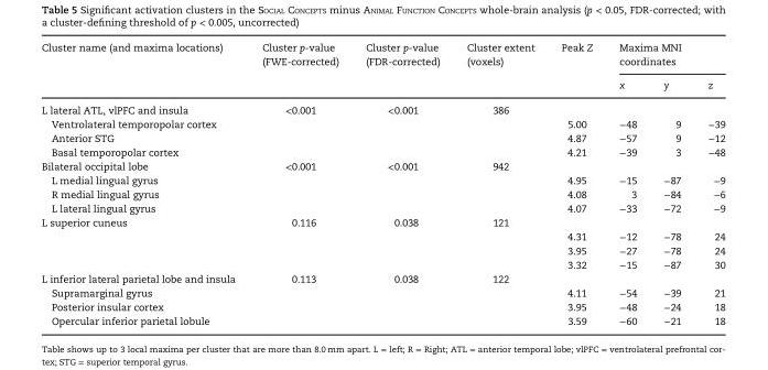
<table><thead><tr><td rowspan="2">Cluster name (and maxima locations)</td><td rowspan="2">Cluster p-value (FWE-corrected)</td><td rowspan="2">Cluster p-value (FDR-corrected)</td><td rowspan="2">Cluster extent (voxels)</td><td rowspan="2">Peak Z</td><td colspan="3">Maxima MNI coordinates</td></tr><tr><td>x</td><td>y</td><td>z</td></tr></thead><tbody><tr><td>L lateral ATL, vlPFC and insula</td><td>&lt;0.001</td><td>&lt;0.001</td><td>386</td><td></td><td></td><td></td><td></td></tr><tr><td>Ventrolateral temporopolar cortex</td><td></td><td></td><td></td><td>5.00</td><td>−48</td><td>9</td><td>−39</td></tr><tr><td>Anterior STG</td><td></td><td></td><td></td><td>4.87</td><td>−57</td><td>9</td><td>−12</td></tr><tr><td>Basal temporopolar cortex</td><td></td><td></td><td></td><td>4.21</td><td>−39</td><td>3</td><td>−48</td></tr><tr><td>Bilateral occipital lobe</td><td>&lt;0.001</td><td>&lt;0.001</td><td>942</td><td></td><td></td><td></td><td></td></tr><tr><td>L medial lingual gyrus</td><td></td><td></td><td></td><td>4.95</td><td>−15</td><td>−87</td><td>−9</td></tr><tr><td>R medial lingual gyrus</td><td></td><td></td><td></td><td>4.08</td><td>3</td><td>−84</td><td>−6</td></tr><tr><td>L lateral lingual gyrus</td><td></td><td></td><td></td><td>4.07</td><td>−33</td><td>−72</td><td>−9</td></tr><tr><td rowspan="4">L superior cuneus</td><td>0.116</td><td>0.038</td><td>121</td><td></td><td></td><td></td><td></td></tr><tr><td></td><td></td><td></td><td>4.31</td><td>−12</td><td>−78</td><td>24</td></tr><tr><td></td><td></td><td></td><td>3.95</td><td>−27</td><td>−78</td><td>24</td></tr><tr><td></td><td></td><td></td><td>3.32</td><td>−15</td><td>−87</td><td>30</td></tr><tr><td>L inferior lateral parietal lobe and insula</td><td>0.113</td><td>0.038</td><td>122</td><td></td><td></td><td></td><td></td></tr><tr><td>Supramarginal gyrus</td><td></td><td></td><td></td><td>4.11</td><td>−54</td><td>−39</td><td>21</td></tr><tr><td>Posterior insular cortex</td><td></td><td></td><td></td><td>3.95</td><td>−48</td><td>−24</td><td>18</td></tr><tr><td>Opercular inferior parietal lobule</td><td></td><td></td><td></td><td>3.59</td><td>−60</td><td>−21</td><td>18</td></tr></tbody></table>